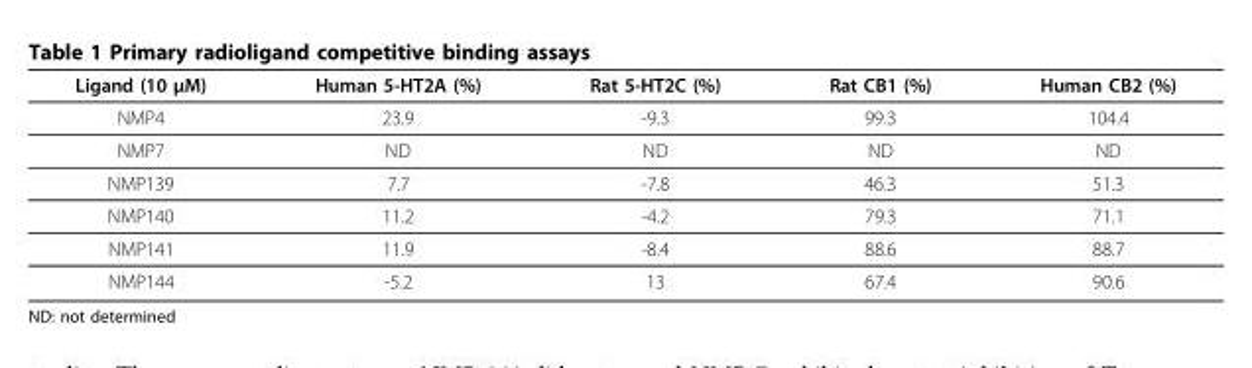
<table><thead><tr><td>Ligand (10 μM)</td><td>Human 5-HT2A (%)</td><td>Rat 5-HT2C (%)</td><td>Rat CB1 (%)</td><td>Human CB2 (%)</td></tr></thead><tbody><tr><td>NMP4</td><td>23.9</td><td>-9.3</td><td>99.3</td><td>104.4</td></tr><tr><td>NMP7</td><td>ND</td><td>ND</td><td>ND</td><td>ND</td></tr><tr><td>NMP139</td><td>7.7</td><td>-7.8</td><td>46.3</td><td>51.3</td></tr><tr><td>NMP140</td><td>11.2</td><td>-4.2</td><td>79.3</td><td>71.1</td></tr><tr><td>NMP141</td><td>11.9</td><td>-8.4</td><td>88.6</td><td>88.7</td></tr><tr><td>NMP144</td><td>-5.2</td><td>13</td><td>67.4</td><td>90.6</td></tr></tbody></table>